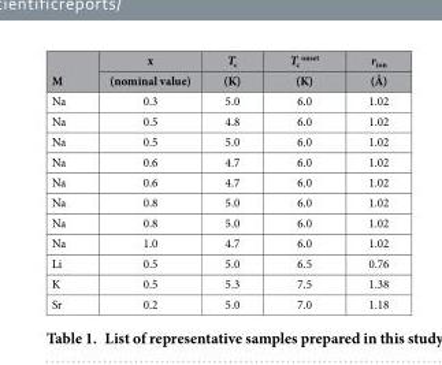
<table><thead><tr><td rowspan="2">M</td><td rowspan="2">x (nominal value)</td><td rowspan="2">T<sub>c</sub> (K)</td><td rowspan="2">T<sub>c</sub> <sup>onset</sup> (K)</td><td rowspan="2">r<sub>ion</sub> (Å)</td></tr><tr></tr></thead><tbody><tr><td>Na</td><td>0.3</td><td>5.0</td><td>6.0</td><td>1.02</td></tr><tr><td>Na</td><td>0.5</td><td>4.8</td><td>6.0</td><td>1.02</td></tr><tr><td>Na</td><td>0.5</td><td>5.0</td><td>6.0</td><td>1.02</td></tr><tr><td>Na</td><td>0.6</td><td>4.7</td><td>6.0</td><td>1.02</td></tr><tr><td>Na</td><td>0.6</td><td>4.7</td><td>6.0</td><td>1.02</td></tr><tr><td>Na</td><td>0.8</td><td>5.0</td><td>6.0</td><td>1.02</td></tr><tr><td>Na</td><td>0.8</td><td>5.0</td><td>6.0</td><td>1.02</td></tr><tr><td>Na</td><td>1.0</td><td>4.7</td><td>6.0</td><td>1.02</td></tr><tr><td>Li</td><td>0.5</td><td>5.0</td><td>6.5</td><td>0.76</td></tr><tr><td>K</td><td>0.5</td><td>5.3</td><td>7.5</td><td>1.38</td></tr><tr><td>Sr</td><td>0.2</td><td>5.0</td><td>7.0</td><td>1.18</td></tr></tbody></table>